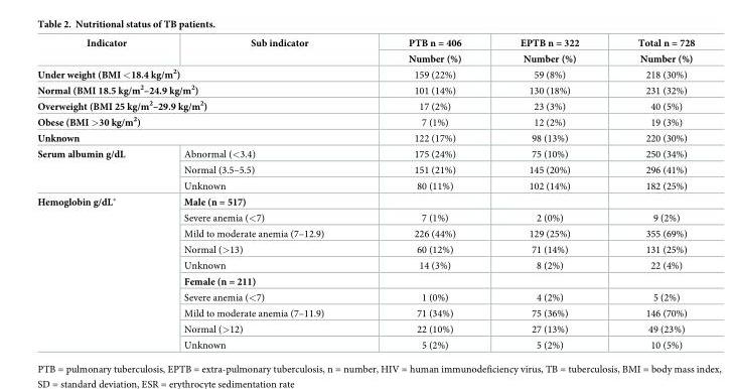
<table><thead><tr><td rowspan="2">Indicator</td><td rowspan="2">Sub indicator</td><td rowspan="2">PTB n = 406 Number (%)</td><td rowspan="2">EPTB n = 322 Number (%)</td><td rowspan="2">Total n = 728 Number (%)</td></tr><tr></tr></thead><tbody><tr><td colspan="2">Under weight (BMI &lt;18.4 kg/m<sup>2</sup>)</td><td>159 (22%)</td><td>59 (8%)</td><td>218 (30%)</td></tr><tr><td colspan="2">Normal (BMI 18.5 kg/m<sup>2</sup>–24.9 kg/m<sup>2</sup>)</td><td>101 (14%)</td><td>130 (18%)</td><td>231 (32%)</td></tr><tr><td colspan="2">Overweight (BMI 25 kg/m<sup>2</sup>–29.9 kg/m<sup>2</sup>)</td><td>17 (2%)</td><td>23 (3%)</td><td>40 (5%)</td></tr><tr><td colspan="2">Obese (BMI &gt;30 kg/m<sup>2</sup>)</td><td>7 (1%)</td><td>12 (2%)</td><td>19 (3%)</td></tr><tr><td colspan="2">Unknown</td><td>122 (17%)</td><td>98 (13%)</td><td>220 (30%)</td></tr><tr><td rowspan="3">Serum albumin g/dL</td><td>Abnormal (&lt;3.4)</td><td>175 (24%)</td><td>75 (10%)</td><td>250 (34%)</td></tr><tr><td>Normal (3.5–5.5)</td><td>151 (21%)</td><td>145 (20%)</td><td>296 (41%)</td></tr><tr><td>Unknown</td><td>80 (11%)</td><td>102 (14%)</td><td>182 (25%)</td></tr><tr><td rowspan="10">Hemoglobin g/dL*</td><td>Male (n = 517)</td><td></td><td></td><td></td></tr><tr><td>Severe anemia (&lt;7)</td><td>7 (1%)</td><td>2 (0%)</td><td>9 (2%)</td></tr><tr><td>Mild to moderate anemia (7–12.9)</td><td>226 (44%)</td><td>129 (25%)</td><td>355 (69%)</td></tr><tr><td>Normal (&gt;13)</td><td>60 (12%)</td><td>71 (14%)</td><td>131 (25%)</td></tr><tr><td>Unknown</td><td>14 (3%)</td><td>8 (2%)</td><td>22 (4%)</td></tr><tr><td>Female (n = 211)</td><td></td><td></td><td></td></tr><tr><td>Severe anemia (&lt;7)</td><td>1 (0%)</td><td>4 (2%)</td><td>5 (2%)</td></tr><tr><td>Mild to moderate anemia (7–11.9)</td><td>71 (34%)</td><td>75 (36%)</td><td>146 (70%)</td></tr><tr><td>Normal (&gt;12)</td><td>22 (10%)</td><td>27 (13%)</td><td>49 (23%)</td></tr><tr><td>Unknown</td><td>5 (2%)</td><td>5 (2%)</td><td>10 (5%)</td></tr></tbody></table>